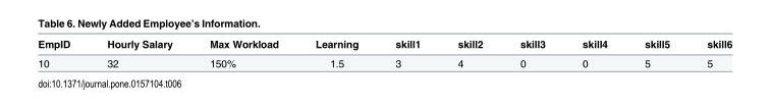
<table><thead><tr><td>EmpID</td><td>Hourly Salary</td><td>Max Workload</td><td>Learning</td><td>skill1</td><td>skill2</td><td>skill3</td><td>skill4</td><td>skill5</td><td>skill6</td></tr></thead><tbody><tr><td>10</td><td>32</td><td>150%</td><td>1.5</td><td>3</td><td>4</td><td>0</td><td>0</td><td>5</td><td>5</td></tr></tbody></table>